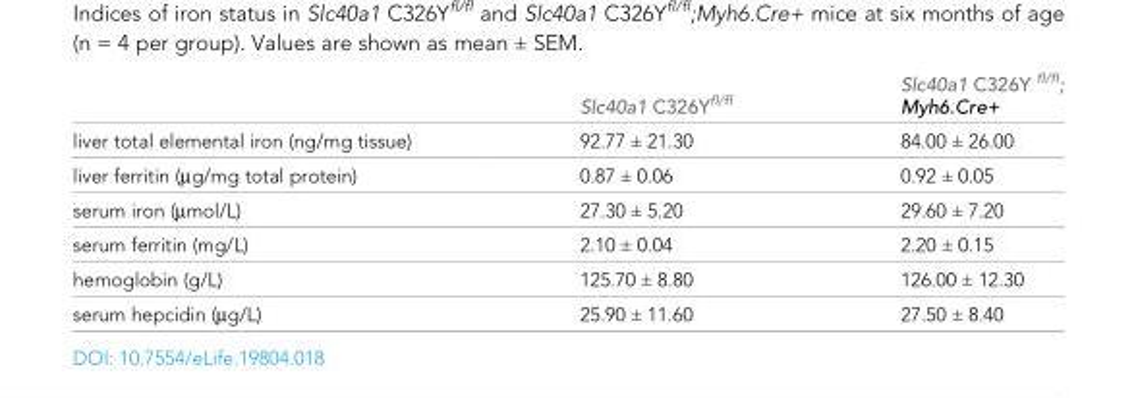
<table><thead><tr><td></td><td>Slc40a1 C326Y<sup>fl/fl</sup></td><td>Slc40a1 C326Y <sup>fl/fl</sup>; Myh6.Cre+</td></tr></thead><tbody><tr><td>liver total elemental iron (ng/mg tissue)</td><td>92.77 ± 21.30</td><td>84.00 ± 26.00</td></tr><tr><td>liver ferritin (µg/mg total protein)</td><td>0.87 ± 0.06</td><td>0.92 ± 0.05</td></tr><tr><td>serum iron (µmol/L)</td><td>27.30 ± 5.20</td><td>29.60 ± 7.20</td></tr><tr><td>serum ferritin (mg/L)</td><td>2.10 ± 0.04</td><td>2.20 ± 0.15</td></tr><tr><td>hemoglobin (g/L)</td><td>125.70 ± 8.80</td><td>126.00 ± 12.30</td></tr><tr><td>serum hepcidin (µg/L)</td><td>25.90 ± 11.60</td><td>27.50 ± 8.40</td></tr></tbody></table>